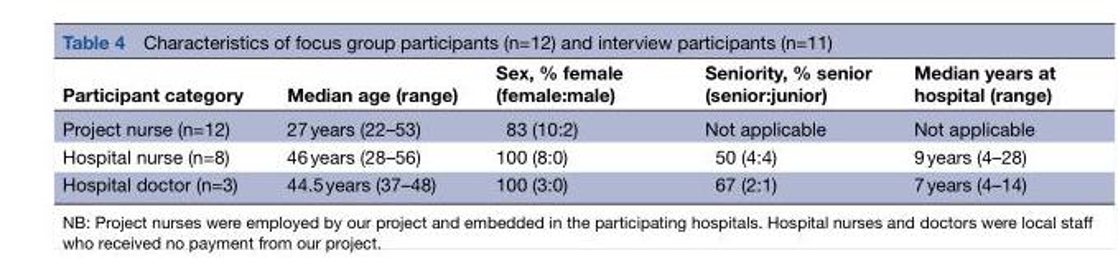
<table><thead><tr><td>Participant category</td><td>Median age (range)</td><td>Sex, % female (female:male)</td><td>Seniority, % senior (senior:junior)</td><td>Median years at hospital (range)</td></tr></thead><tbody><tr><td>Project nurse (n=12)</td><td>27 years (22–53)</td><td>83 (10:2)</td><td>Not applicable</td><td>Not applicable</td></tr><tr><td>Hospital nurse (n=8)</td><td>46 years (28–56)</td><td>100 (8:0)</td><td>50 (4:4)</td><td>9 years (4–28)</td></tr><tr><td>Hospital doctor (n=3)</td><td>44.5 years (37–48)</td><td>100 (3:0)</td><td>67 (2:1)</td><td>7 years (4–14)</td></tr></tbody></table>